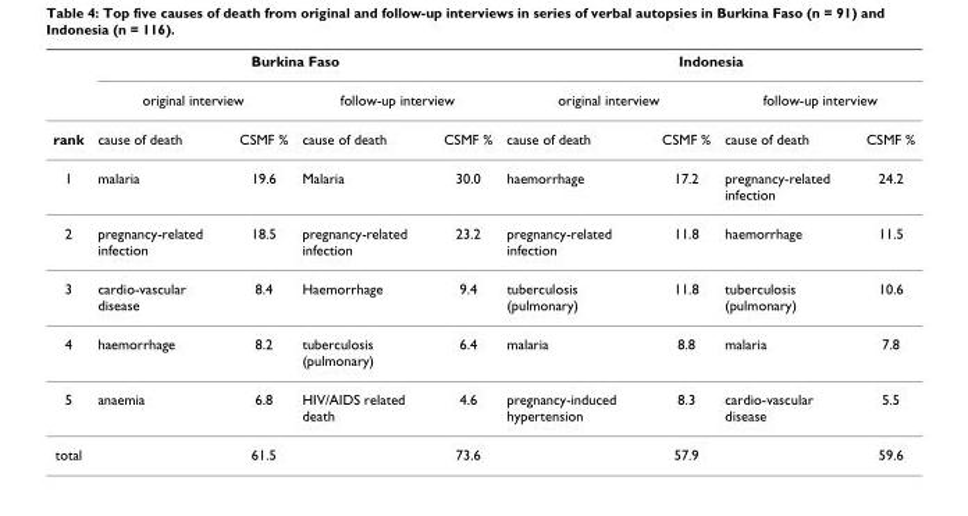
<table><thead><tr><td rowspan="3">rank</td><td colspan="4">Burkina Faso</td><td colspan="4">Indonesia</td></tr><tr><td colspan="2">original interview</td><td colspan="2">follow-up interview</td><td colspan="2">original interview</td><td colspan="2">follow-up interview</td></tr><tr><td>cause of death</td><td>CSMF %</td><td>cause of death</td><td>CSMF %</td><td>cause of death</td><td>CSMF %</td><td>cause of death</td><td>CSMF %</td></tr></thead><tbody><tr><td>1</td><td>malaria</td><td>19.6</td><td>Malaria</td><td>30.0</td><td>haemorrhage</td><td>17.2</td><td>pregnancy-related infection</td><td>24.2</td></tr><tr><td>2</td><td>pregnancy-related infection</td><td>18.5</td><td>pregnancy-related infection</td><td>23.2</td><td>pregnancy-related infection</td><td>11.8</td><td>haemorrhage</td><td>11.5</td></tr><tr><td>3</td><td>cardio-vascular disease</td><td>8.4</td><td>Haemorrhage</td><td>9.4</td><td>tuberculosis (pulmonary)</td><td>11.8</td><td>tuberculosis (pulmonary)</td><td>10.6</td></tr><tr><td>4</td><td>haemorrhage</td><td>8.2</td><td>tuberculosis (pulmonary)</td><td>6.4</td><td>malaria</td><td>8.8</td><td>malaria</td><td>7.8</td></tr><tr><td>5</td><td>anaemia</td><td>6.8</td><td>HIV/AIDS related death</td><td>4.6</td><td>pregnancy-induced hypertension</td><td>8.3</td><td>cardio-vascular disease</td><td>5.5</td></tr><tr><td>total</td><td></td><td>61.5</td><td></td><td>73.6</td><td></td><td>57.9</td><td></td><td>59.6</td></tr></tbody></table>